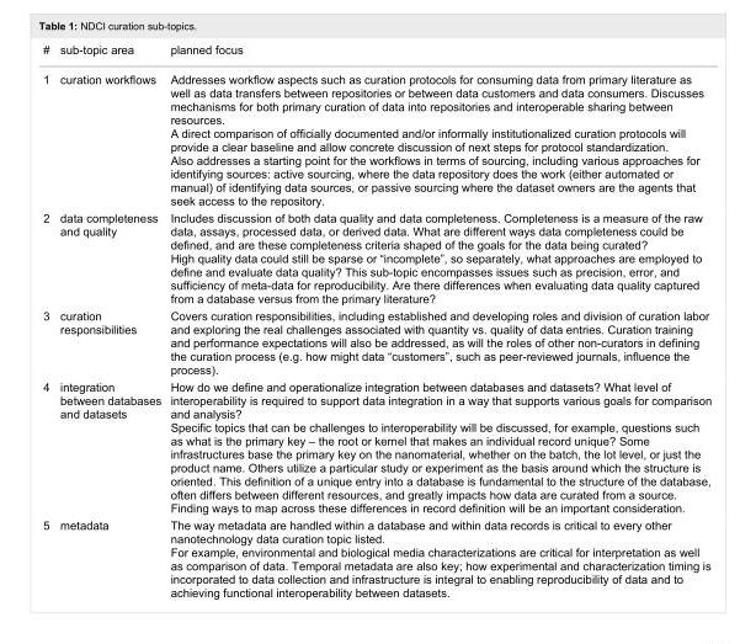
<table><tbody><tr><td>#</td><td>sub-topic area</td><td>planned focus</td></tr><tr><td>1</td><td>curation workflows</td><td>Addresses workflow aspects such as curation protocols for consuming data from primary literature as well as data transfers between repositories or between data customers and data consumers. Discusses mechanisms for both primary curation of data into repositories and interoperable sharing between resources. A direct comparison of officially documented and/or informally institutionalized curation protocols will provide a clear baseline and allow concrete discussion of next steps for protocol standardization. Also addresses a starting point for the workflows in terms of sourcing, including various approaches for identifying sources: active sourcing, where the data repository does the work (either automated or manual) of identifying data sources, or passive sourcing where the dataset owners are the agents that seek access to the repository.</td></tr><tr><td>2</td><td>data completeness and quality</td><td>Includes discussion of both data quality and data completeness. Completeness is a measure of the raw data, assays, processed data, or derived data. What are different ways data completeness could be defined, and are these completeness criteria shaped of the goals for the data being curated? High quality data could still be sparse or “incomplete”, so separately, what approaches are employed to define and evaluate data quality? This sub-topic encompasses issues such as precision, error, and sufficiency of meta-data for reproducibility. Are there differences when evaluating data quality captured from a database versus from the primary literature?</td></tr><tr><td>3</td><td>curation responsibilities</td><td>Covers curation responsibilities, including established and developing roles and division of curation labor and exploring the real challenges associated with quantity vs. quality of data entries. Curation training and performance expectations will also be addressed, as will the roles of other non-curators in defining the curation process (e.g. how might data “customers”, such as peer-reviewed journals, influence the process).</td></tr><tr><td>4</td><td>integration between databases and datasets</td><td>How do we define and operationalize integration between databases and datasets? What level of interoperability is required to support data integration in a way that supports various goals for comparison and analysis? Specific topics that can be challenges to interoperability will be discussed, for example, questions such as what is the primary key – the root or kernel that makes an individual record unique? Some infrastructures base the primary key on the nanomaterial, whether on the batch, the lot level, or just the product name. Others utilize a particular study or experiment as the basis around which the structure is oriented. This definition of a unique entry into a database is fundamental to the structure of the database, often differs between different resources, and greatly impacts how data are curated from a source. Finding ways to map across these differences in record definition will be an important consideration.</td></tr><tr><td>5</td><td>metadata</td><td>The way metadata are handled within a database and within data records is critical to every other nanotechnology data curation topic listed. For example, environmental and biological media characterizations are critical for interpretation as well as comparison of data. Temporal metadata are also key; how experimental and characterization timing is incorporated to data collection and infrastructure is integral to enabling reproducibility of data and to achieving functional interoperability between datasets.</td></tr></tbody></table>